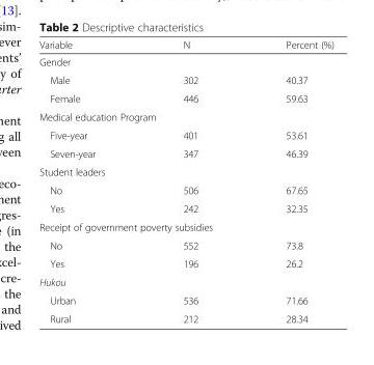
<table><thead><tr><td>Variable</td><td>N</td><td>Percent (%)</td></tr></thead><tbody><tr><td colspan="3">Gender</td></tr><tr><td>Male</td><td>302</td><td>40.37</td></tr><tr><td>Female</td><td>446</td><td>59.63</td></tr><tr><td colspan="3">Medical education Program</td></tr><tr><td>Five-year</td><td>401</td><td>53.61</td></tr><tr><td>Seven-year</td><td>347</td><td>46.39</td></tr><tr><td colspan="3">Student leaders</td></tr><tr><td>No</td><td>506</td><td>67.65</td></tr><tr><td>Yes</td><td>242</td><td>32.35</td></tr><tr><td colspan="3">Receipt of government poverty subsidies</td></tr><tr><td>No</td><td>552</td><td>73.8</td></tr><tr><td>Yes</td><td>196</td><td>26.2</td></tr><tr><td colspan="3">Hukou</td></tr><tr><td>Urban</td><td>536</td><td>71.66</td></tr><tr><td>Rural</td><td>212</td><td>28.34</td></tr></tbody></table>